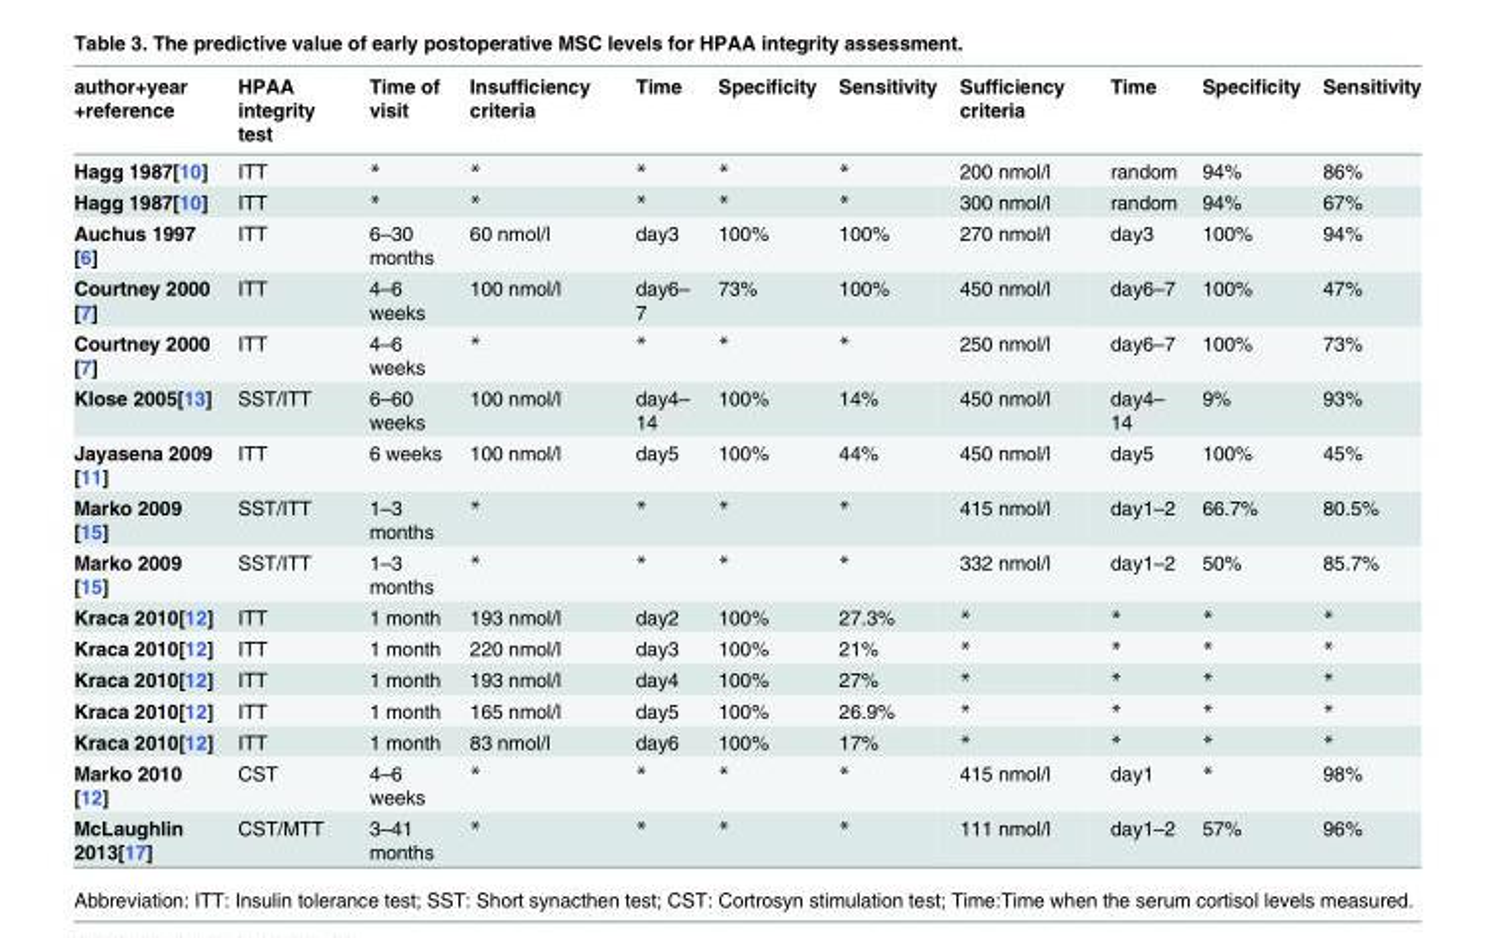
<table><thead><tr><td>author+year +reference</td><td>HPAA integrity test</td><td>Time of visit</td><td>Insufficiency criteria</td><td>Time</td><td>Specificity</td><td>Sensitivity</td><td>Sufficiency criteria</td><td>Time</td><td>Specificity</td><td>Sensitivity</td></tr></thead><tbody><tr><td>Hagg 1987[10]</td><td>ITT</td><td>*</td><td>*</td><td>*</td><td>*</td><td>*</td><td>200 nmol/l</td><td>random</td><td>94%</td><td>86%</td></tr><tr><td>Hagg 1987[10]</td><td>ITT</td><td>*</td><td>*</td><td>*</td><td>*</td><td>*</td><td>300 nmol/l</td><td>random</td><td>94%</td><td>67%</td></tr><tr><td>Auchus 1997 [6]</td><td>ITT</td><td>6–30 months</td><td>60 nmol/l</td><td>day3</td><td>100%</td><td>100%</td><td>270 nmol/l</td><td>day3</td><td>100%</td><td>94%</td></tr><tr><td>Courtney 2000 [7]</td><td>ITT</td><td>4–6 weeks</td><td>100 nmol/l</td><td>day6– 7</td><td>73%</td><td>100%</td><td>450 nmol/l</td><td>day6–7</td><td>100%</td><td>47%</td></tr><tr><td>Courtney 2000 [7]</td><td>ITT</td><td>4–6 weeks</td><td>*</td><td>*</td><td>*</td><td>*</td><td>250 nmol/l</td><td>day6–7</td><td>100%</td><td>73%</td></tr><tr><td>Klose 2005[13]</td><td>SST/ITT</td><td>6–60 weeks</td><td>100 nmol/l</td><td>day4– 14</td><td>100%</td><td>14%</td><td>450 nmol/l</td><td>day4– 14</td><td>9%</td><td>93%</td></tr><tr><td>Jayasena 2009 [11]</td><td>ITT</td><td>6 weeks</td><td>100 nmol/l</td><td>day5</td><td>100%</td><td>44%</td><td>450 nmol/l</td><td>day5</td><td>100%</td><td>45%</td></tr><tr><td>Marko 2009 [15]</td><td>SST/ITT</td><td>1–3 months</td><td>*</td><td>*</td><td>*</td><td>*</td><td>415 nmol/l</td><td>day1–2</td><td>66.7%</td><td>80.5%</td></tr><tr><td>Marko 2009 [15]</td><td>SST/ITT</td><td>1–3 months</td><td>*</td><td>*</td><td>*</td><td>*</td><td>332 nmol/l</td><td>day1–2</td><td>50%</td><td>85.7%</td></tr><tr><td>Kraca 2010[12]</td><td>ITT</td><td>1 month</td><td>193 nmol/l</td><td>day2</td><td>100%</td><td>27.3%</td><td>*</td><td>*</td><td>*</td><td>*</td></tr><tr><td>Kraca 2010[12]</td><td>ITT</td><td>1 month</td><td>220 nmol/l</td><td>day3</td><td>100%</td><td>21%</td><td>*</td><td>*</td><td>*</td><td>*</td></tr><tr><td>Kraca 2010[12]</td><td>ITT</td><td>1 month</td><td>193 nmol/l</td><td>day4</td><td>100%</td><td>27%</td><td>*</td><td>*</td><td>*</td><td>*</td></tr><tr><td>Kraca 2010[12]</td><td>ITT</td><td>1 month</td><td>165 nmol/l</td><td>day5</td><td>100%</td><td>26.9%</td><td>*</td><td>*</td><td>*</td><td>*</td></tr><tr><td>Kraca 2010[12]</td><td>ITT</td><td>1 month</td><td>83 nmol/l</td><td>day6</td><td>100%</td><td>17%</td><td>*</td><td>*</td><td>*</td><td>*</td></tr><tr><td>Marko 2010 [12]</td><td>CST</td><td>4–6 weeks</td><td>*</td><td>*</td><td>*</td><td>*</td><td>415 nmol/l</td><td>day1</td><td>*</td><td>98%</td></tr><tr><td>McLaughlin 2013[17]</td><td>CST/MTT</td><td>3–41 months</td><td>*</td><td>*</td><td>*</td><td>*</td><td>111 nmol/l</td><td>day1–2</td><td>57%</td><td>96%</td></tr></tbody></table>